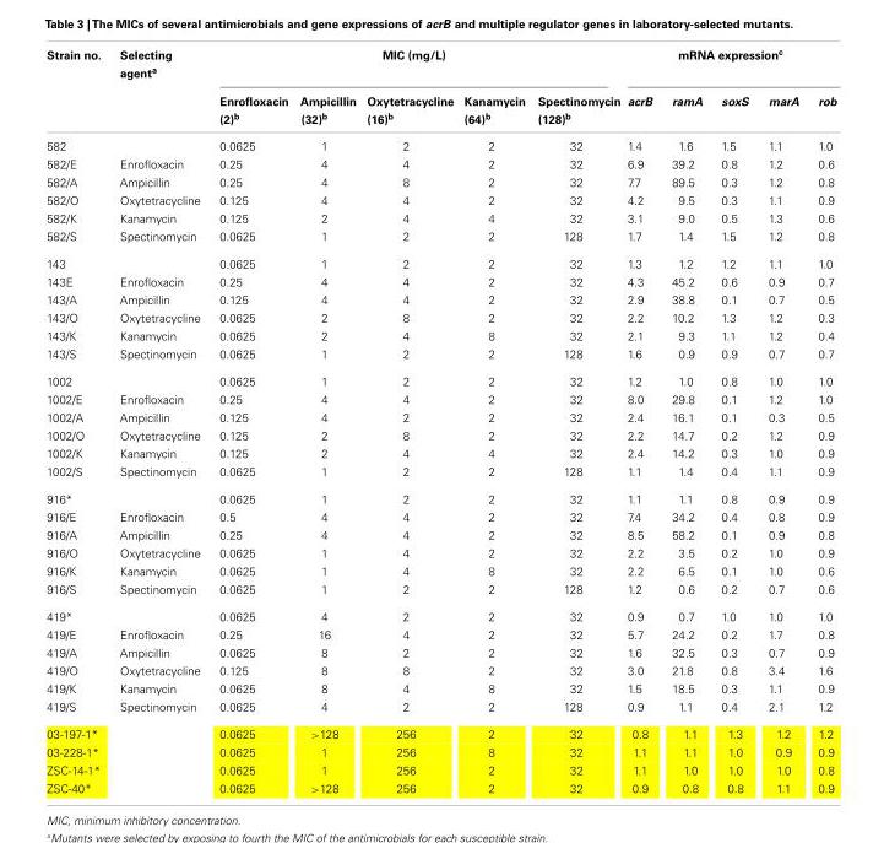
<table><thead><tr><td rowspan="2">Strain no.</td><td rowspan="2">Selecting agent<sup>a</sup></td><td colspan="5">MIC (mg/L)</td><td colspan="5">mRNA expression<sup>c</sup></td></tr><tr><td>Enrofloxacin (2)<sup>b</sup></td><td>Ampicillin (32)<sup>b</sup></td><td>Oxytetracycline (16)<sup>b</sup></td><td>Kanamycin (64)<sup>b</sup></td><td>Spectinomycin (128)<sup>b</sup></td><td>acrB</td><td>ramA</td><td>soxS</td><td>marA</td><td>rob</td></tr></thead><tbody><tr><td>582</td><td></td><td>0.0625</td><td>1</td><td>2</td><td>2</td><td>32</td><td>1.4</td><td>1.6</td><td>1.5</td><td>1.1</td><td>1.0</td></tr><tr><td>582/E</td><td>Enrofloxacin</td><td>0.25</td><td>4</td><td>4</td><td>2</td><td>32</td><td>6.9</td><td>39.2</td><td>0.8</td><td>1.2</td><td>0.6</td></tr><tr><td>582/A</td><td>Ampicillin</td><td>0.25</td><td>4</td><td>8</td><td>2</td><td>32</td><td>7.7</td><td>89.5</td><td>0.3</td><td>1.2</td><td>0.8</td></tr><tr><td>582/O</td><td>Oxytetracycline</td><td>0.125</td><td>4</td><td>4</td><td>2</td><td>32</td><td>4.2</td><td>9.5</td><td>0.3</td><td>1.1</td><td>0.9</td></tr><tr><td>582/K</td><td>Kanamycin</td><td>0.125</td><td>2</td><td>4</td><td>4</td><td>32</td><td>3.1</td><td>9.0</td><td>0.5</td><td>1.3</td><td>0.6</td></tr><tr><td>582/S</td><td>Spectinomycin</td><td>0.0625</td><td>1</td><td>2</td><td>2</td><td>128</td><td>1.7</td><td>1.4</td><td>1.5</td><td>1.2</td><td>0.8</td></tr><tr><td>143</td><td></td><td>0.0625</td><td>1</td><td>2</td><td>2</td><td>32</td><td>1.3</td><td>1.2</td><td>1.2</td><td>1.1</td><td>1.0</td></tr><tr><td>143E</td><td>Enrofloxacin</td><td>0.25</td><td>4</td><td>4</td><td>2</td><td>32</td><td>4.3</td><td>45.2</td><td>0.6</td><td>0.9</td><td>0.7</td></tr><tr><td>143/A</td><td>Ampicillin</td><td>0.125</td><td>4</td><td>4</td><td>2</td><td>32</td><td>2.9</td><td>38.8</td><td>0.1</td><td>0.7</td><td>0.5</td></tr><tr><td>143/O</td><td>Oxytetracycline</td><td>0.0625</td><td>2</td><td>8</td><td>2</td><td>32</td><td>2.2</td><td>10.2</td><td>1.3</td><td>1.2</td><td>0.3</td></tr><tr><td>143/K</td><td>Kanamycin</td><td>0.0625</td><td>2</td><td>4</td><td>8</td><td>32</td><td>2.1</td><td>9.3</td><td>1.1</td><td>1.2</td><td>0.4</td></tr><tr><td>143/S</td><td>Spectinomycin</td><td>0.0625</td><td>1</td><td>2</td><td>2</td><td>128</td><td>1.6</td><td>0.9</td><td>0.9</td><td>0.7</td><td>0.7</td></tr><tr><td>1002</td><td></td><td>0.0625</td><td>1</td><td>2</td><td>2</td><td>32</td><td>1.2</td><td>1.0</td><td>0.8</td><td>1.0</td><td>1.0</td></tr><tr><td>1002/E</td><td>Enrofloxacin</td><td>0.25</td><td>4</td><td>4</td><td>2</td><td>32</td><td>8.0</td><td>29.8</td><td>0.1</td><td>1.2</td><td>1.0</td></tr><tr><td>1002/A</td><td>Ampicillin</td><td>0.125</td><td>4</td><td>2</td><td>2</td><td>32</td><td>2.4</td><td>16.1</td><td>0.1</td><td>0.3</td><td>0.5</td></tr><tr><td>1002/O</td><td>Oxytetracycline</td><td>0.125</td><td>2</td><td>8</td><td>2</td><td>32</td><td>2.2</td><td>14.7</td><td>0.2</td><td>1.2</td><td>0.9</td></tr><tr><td>1002/K</td><td>Kanamycin</td><td>0.125</td><td>2</td><td>4</td><td>4</td><td>32</td><td>2.4</td><td>14.2</td><td>0.3</td><td>1.0</td><td>0.9</td></tr><tr><td>1002/S</td><td>Spectinomycin</td><td>0.0625</td><td>1</td><td>2</td><td>2</td><td>128</td><td>1.1</td><td>1.4</td><td>0.4</td><td>1.1</td><td>0.9</td></tr><tr><td>916*</td><td></td><td>0.0625</td><td>1</td><td>2</td><td>2</td><td>32</td><td>1.1</td><td>1.1</td><td>0.8</td><td>0.9</td><td>0.9</td></tr><tr><td>916/E</td><td>Enrofloxacin</td><td>0.5</td><td>4</td><td>4</td><td>2</td><td>32</td><td>7.4</td><td>34.2</td><td>0.4</td><td>0.8</td><td>0.9</td></tr><tr><td>916/A</td><td>Ampicillin</td><td>0.25</td><td>4</td><td>4</td><td>2</td><td>32</td><td>8.5</td><td>58.2</td><td>0.1</td><td>0.9</td><td>0.8</td></tr><tr><td>916/O</td><td>Oxytetracycline</td><td>0.0625</td><td>1</td><td>4</td><td>2</td><td>32</td><td>2.2</td><td>3.5</td><td>0.2</td><td>1.0</td><td>0.9</td></tr><tr><td>916/K</td><td>Kanamycin</td><td>0.0625</td><td>1</td><td>4</td><td>8</td><td>32</td><td>2.2</td><td>6.5</td><td>0.1</td><td>1.0</td><td>0.6</td></tr><tr><td>916/S</td><td>Spectinomycin</td><td>0.0625</td><td>1</td><td>2</td><td>2</td><td>128</td><td>1.2</td><td>0.6</td><td>0.2</td><td>0.7</td><td>0.6</td></tr><tr><td>419*</td><td></td><td>0.0625</td><td>4</td><td>2</td><td>2</td><td>32</td><td>0.9</td><td>0.7</td><td>1.0</td><td>1.0</td><td>1.0</td></tr><tr><td>419/E</td><td>Enrofloxacin</td><td>0.25</td><td>16</td><td>4</td><td>2</td><td>32</td><td>5.7</td><td>24.2</td><td>0.2</td><td>1.7</td><td>0.8</td></tr><tr><td>419/A</td><td>Ampicillin</td><td>0.0625</td><td>8</td><td>2</td><td>2</td><td>32</td><td>1.6</td><td>32.5</td><td>0.3</td><td>0.7</td><td>0.9</td></tr><tr><td>419/O</td><td>Oxytetracycline</td><td>0.125</td><td>8</td><td>8</td><td>2</td><td>32</td><td>3.0</td><td>21.8</td><td>0.8</td><td>3.4</td><td>1.6</td></tr><tr><td>419/K</td><td>Kanamycin</td><td>0.0625</td><td>8</td><td>4</td><td>8</td><td>32</td><td>1.5</td><td>18.5</td><td>0.3</td><td>1.1</td><td>0.9</td></tr><tr><td>419/S</td><td>Spectinomycin</td><td>0.0625</td><td>4</td><td>2</td><td>2</td><td>128</td><td>0.9</td><td>1.1</td><td>0.4</td><td>2.1</td><td>1.2</td></tr><tr><td>03-197-1*</td><td></td><td>0.0625</td><td>&gt;128</td><td>256</td><td>2</td><td>32</td><td>0.8</td><td>1.1</td><td>1.3</td><td>1.2</td><td>1.2</td></tr><tr><td>03-228-1*</td><td></td><td>0.0625</td><td>1</td><td>256</td><td>8</td><td>32</td><td>1.1</td><td>1.1</td><td>1.0</td><td>0.9</td><td>0.9</td></tr><tr><td>ZSC-14-1*</td><td></td><td>0.0625</td><td>1</td><td>256</td><td>2</td><td>32</td><td>1.1</td><td>1.0</td><td>1.0</td><td>1.0</td><td>0.8</td></tr><tr><td>ZSC-40*</td><td></td><td>0.0625</td><td>&gt;128</td><td>256</td><td>2</td><td>32</td><td>0.9</td><td>0.8</td><td>0.8</td><td>1.1</td><td>0.9</td></tr></tbody></table>